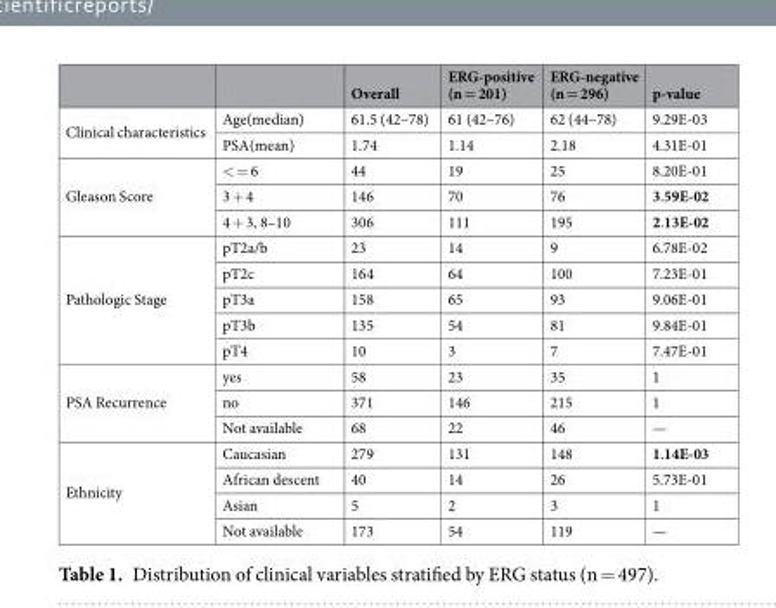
<table><thead><tr><td></td><td></td><td>Overall</td><td>ERG-positive (n = 201)</td><td>ERG-negative (n = 296)</td><td>p-value</td></tr></thead><tbody><tr><td rowspan="2">Clinical characteristics</td><td>Age(median)</td><td>61.5 (42–78)</td><td>61 (42–76)</td><td>62 (44–78)</td><td>9.29E-03</td></tr><tr><td>PSA(mean)</td><td>1.74</td><td>1.14</td><td>2.18</td><td>4.31E-01</td></tr><tr><td rowspan="3">Gleason Score</td><td>&lt; = 6</td><td>44</td><td>19</td><td>25</td><td>8.20E-01</td></tr><tr><td>3 + 4</td><td>146</td><td>70</td><td>76</td><td>3.59E-02</td></tr><tr><td>4 + 3, 8–10</td><td>306</td><td>111</td><td>195</td><td>2.13E-02</td></tr><tr><td rowspan="5">Pathologic Stage</td><td>pT2a/b</td><td>23</td><td>14</td><td>9</td><td>6.78E-02</td></tr><tr><td>pT2c</td><td>164</td><td>64</td><td>100</td><td>7.23E-01</td></tr><tr><td>pT3a</td><td>158</td><td>65</td><td>93</td><td>9.06E-01</td></tr><tr><td>pT3b</td><td>135</td><td>54</td><td>81</td><td>9.84E-01</td></tr><tr><td>pT4</td><td>10</td><td>3</td><td>7</td><td>7.47E-01</td></tr><tr><td rowspan="3">PSA Recurrence</td><td>yes</td><td>58</td><td>23</td><td>35</td><td>1</td></tr><tr><td>no</td><td>371</td><td>146</td><td>215</td><td>1</td></tr><tr><td>Not available</td><td>68</td><td>22</td><td>46</td><td>—</td></tr><tr><td rowspan="4">Ethnicity</td><td>Caucasian</td><td>279</td><td>131</td><td>148</td><td>1.14E-03</td></tr><tr><td>African descent</td><td>40</td><td>14</td><td>26</td><td>5.73E-01</td></tr><tr><td>Asian</td><td>5</td><td>2</td><td>3</td><td>1</td></tr><tr><td>Not available</td><td>173</td><td>54</td><td>119</td><td>—</td></tr></tbody></table>